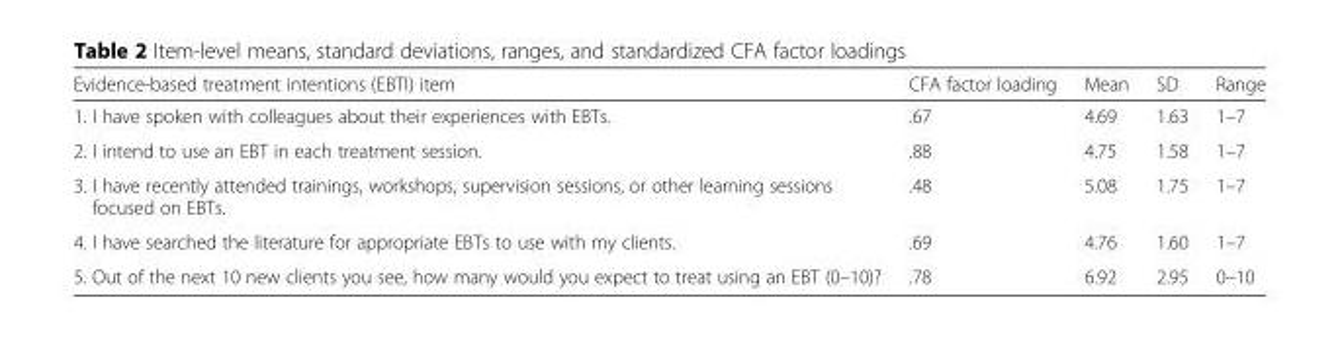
<table><thead><tr><td>Evidence-based treatment intentions (EBTI) item</td><td>CFA factor loading</td><td>Mean</td><td>SD</td><td>Range</td></tr></thead><tbody><tr><td>1. I have spoken with colleagues about their experiences with EBTs.</td><td>.67</td><td>4.69</td><td>1.63</td><td>1–7</td></tr><tr><td>2. I intend to use an EBT in each treatment session.</td><td>.88</td><td>4.75</td><td>1.58</td><td>1–7</td></tr><tr><td>3. I have recently attended trainings, workshops, supervision sessions, or other learning sessions focused on EBTs.</td><td>.48</td><td>5.08</td><td>1.75</td><td>1–7</td></tr><tr><td>4. I have searched the literature for appropriate EBTs to use with my clients.</td><td>.69</td><td>4.76</td><td>1.60</td><td>1–7</td></tr><tr><td>5. Out of the next 10 new clients you see, how many would you expect to treat using an EBT (0–10)?</td><td>.78</td><td>6.92</td><td>2.95</td><td>0–10</td></tr></tbody></table>